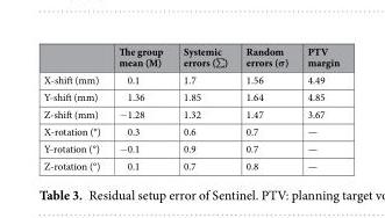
<table><thead><tr><td></td><td>The group mean (M)</td><td>Systemic errors (∑)</td><td>Random errors (σ)</td><td>PTV margin</td></tr></thead><tbody><tr><td>X-shift (mm)</td><td>0.1</td><td>1.7</td><td>1.56</td><td>4.49</td></tr><tr><td>Y-shift (mm)</td><td>1.36</td><td>1.85</td><td>1.64</td><td>4.85</td></tr><tr><td>Z-shift (mm)</td><td>−1.28</td><td>1.32</td><td>1.47</td><td>3.67</td></tr><tr><td>X-rotation (°)</td><td>0.3</td><td>0.6</td><td>0.7</td><td>—</td></tr><tr><td>Y-rotation (°)</td><td>−0.1</td><td>0.9</td><td>0.7</td><td>—</td></tr><tr><td>Z-rotation (°)</td><td>0.1</td><td>0.7</td><td>0.8</td><td>—</td></tr></tbody></table>